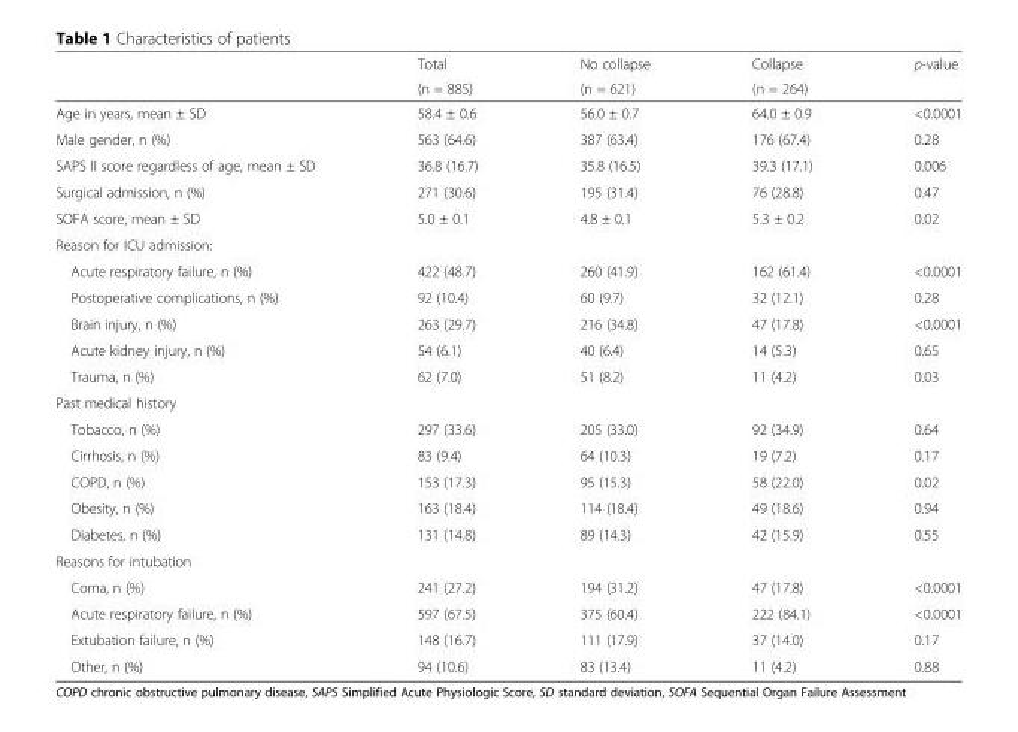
<table><thead><tr><td rowspan="2"></td><td rowspan="2">Total (n = 885)</td><td rowspan="2">No collapse (n = 621)</td><td rowspan="2">Collapse (n = 264)</td><td rowspan="2">p-value</td></tr><tr></tr></thead><tbody><tr><td>Age in years, mean ± SD</td><td>58.4 ± 0.6</td><td>56.0 ± 0.7</td><td>64.0 ± 0.9</td><td>&lt;0.0001</td></tr><tr><td>Male gender, n (%)</td><td>563 (64.6)</td><td>387 (63.4)</td><td>176 (67.4)</td><td>0.28</td></tr><tr><td>SAPS II score regardless of age, mean ± SD</td><td>36.8 (16.7)</td><td>35.8 (16.5)</td><td>39.3 (17.1)</td><td>0.006</td></tr><tr><td>Surgical admission, n (%)</td><td>271 (30.6)</td><td>195 (31.4)</td><td>76 (28.8)</td><td>0.47</td></tr><tr><td>SOFA score, mean ± SD</td><td>5.0 ± 0.1</td><td>4.8 ± 0.1</td><td>5.3 ± 0.2</td><td>0.02</td></tr><tr><td colspan="5">Reason for ICU admission:</td></tr><tr><td>Acute respiratory failure, n (%)</td><td>422 (48.7)</td><td>260 (41.9)</td><td>162 (61.4)</td><td>&lt;0.0001</td></tr><tr><td>Postoperative complications, n (%)</td><td>92 (10.4)</td><td>60 (9.7)</td><td>32 (12.1)</td><td>0.28</td></tr><tr><td>Brain injury, n (%)</td><td>263 (29.7)</td><td>216 (34.8)</td><td>47 (17.8)</td><td>&lt;0.0001</td></tr><tr><td>Acute kidney injury, n (%)</td><td>54 (6.1)</td><td>40 (6.4)</td><td>14 (5.3)</td><td>0.65</td></tr><tr><td>Trauma, n (%)</td><td>62 (7.0)</td><td>51 (8.2)</td><td>11 (4.2)</td><td>0.03</td></tr><tr><td colspan="5">Past medical history</td></tr><tr><td>Tobacco, n (%)</td><td>297 (33.6)</td><td>205 (33.0)</td><td>92 (34.9)</td><td>0.64</td></tr><tr><td>Cirrhosis, n (%)</td><td>83 (9.4)</td><td>64 (10.3)</td><td>19 (7.2)</td><td>0.17</td></tr><tr><td>COPD, n (%)</td><td>153 (17.3)</td><td>95 (15.3)</td><td>58 (22.0)</td><td>0.02</td></tr><tr><td>Obesity, n (%)</td><td>163 (18.4)</td><td>114 (18.4)</td><td>49 (18.6)</td><td>0.94</td></tr><tr><td>Diabetes, n (%)</td><td>131 (14.8)</td><td>89 (14.3)</td><td>42 (15.9)</td><td>0.55</td></tr><tr><td colspan="5">Reasons for intubation</td></tr><tr><td>Coma, n (%)</td><td>241 (27.2)</td><td>194 (31.2)</td><td>47 (17.8)</td><td>&lt;0.0001</td></tr><tr><td>Acute respiratory failure, n (%)</td><td>597 (67.5)</td><td>375 (60.4)</td><td>222 (84.1)</td><td>&lt;0.0001</td></tr><tr><td>Extubation failure, n (%)</td><td>148 (16.7)</td><td>111 (17.9)</td><td>37 (14.0)</td><td>0.17</td></tr><tr><td>Other, n (%)</td><td>94 (10.6)</td><td>83 (13.4)</td><td>11 (4.2)</td><td>0.88</td></tr></tbody></table>